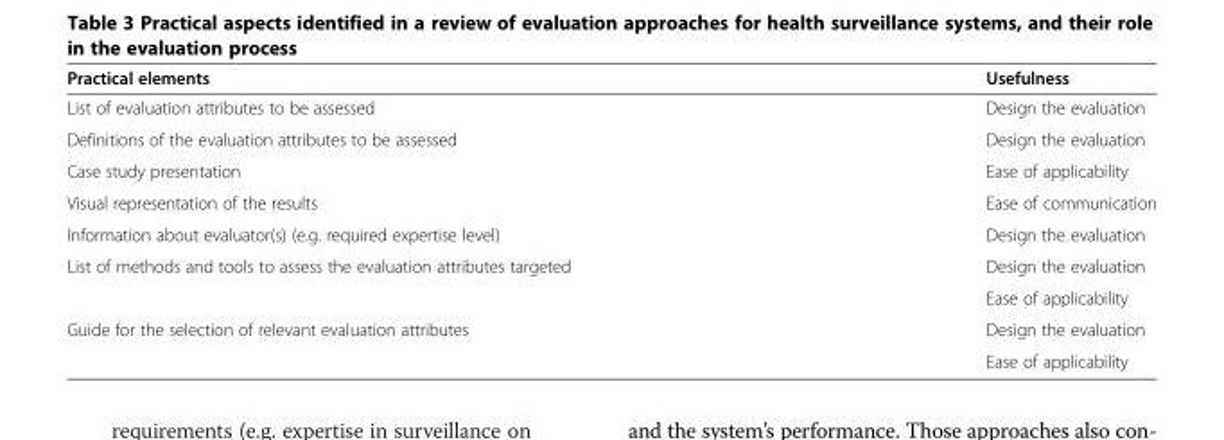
<table><thead><tr><td>Practical elements</td><td>Usefulness</td></tr></thead><tbody><tr><td>List of evaluation attributes to be assessed</td><td>Design the evaluation</td></tr><tr><td>Definitions of the evaluation attributes to be assessed</td><td>Design the evaluation</td></tr><tr><td>Case study presentation</td><td>Ease of applicability</td></tr><tr><td>Visual representation of the results</td><td>Ease of communication</td></tr><tr><td>Information about evaluator(s) (e.g. required expertise level)</td><td>Design the evaluation</td></tr><tr><td rowspan="2">List of methods and tools to assess the evaluation attributes targeted</td><td>Design the evaluation</td></tr><tr><td>Ease of applicability</td></tr><tr><td rowspan="2">Guide for the selection of relevant evaluation attributes</td><td>Design the evaluation</td></tr><tr><td>Ease of applicability</td></tr></tbody></table>